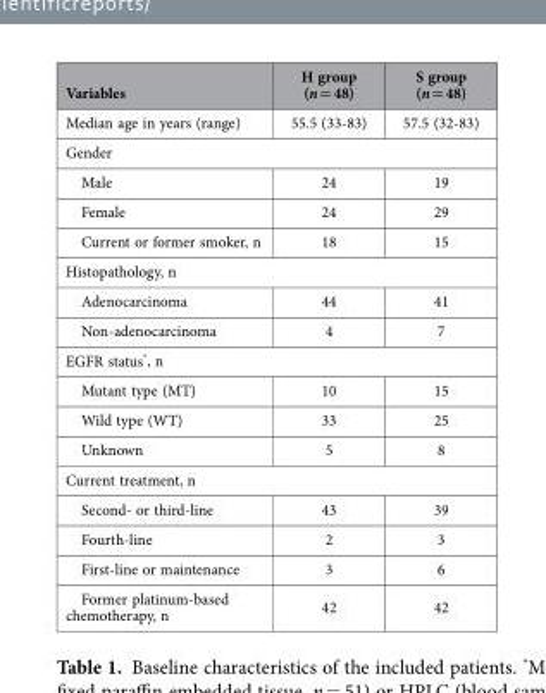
<table><thead><tr><td>Variables</td><td>H group (n = 48)</td><td>S group (n = 48)</td></tr></thead><tbody><tr><td>Median age in years (range)</td><td>55.5 (33-83)</td><td>57.5 (32-83)</td></tr><tr><td colspan="3">Gender</td></tr><tr><td>Male</td><td>24</td><td>19</td></tr><tr><td>Female</td><td>24</td><td>29</td></tr><tr><td>Current or former smoker, n</td><td>18</td><td>15</td></tr><tr><td colspan="3">Histopathology, n</td></tr><tr><td>Adenocarcinoma</td><td>44</td><td>41</td></tr><tr><td>Non-adenocarcinoma</td><td>4</td><td>7</td></tr><tr><td colspan="3">EGFR status*, n</td></tr><tr><td>Mutant type (MT)</td><td>10</td><td>15</td></tr><tr><td>Wild type (WT)</td><td>33</td><td>25</td></tr><tr><td>Unknown</td><td>5</td><td>8</td></tr><tr><td colspan="3">Current treatment, n</td></tr><tr><td>Second- or third-line</td><td>43</td><td>39</td></tr><tr><td>Fourth-line</td><td>2</td><td>3</td></tr><tr><td>First-line or maintenance</td><td>3</td><td>6</td></tr><tr><td>Former platinum-based chemotherapy, n</td><td>42</td><td>42</td></tr></tbody></table>